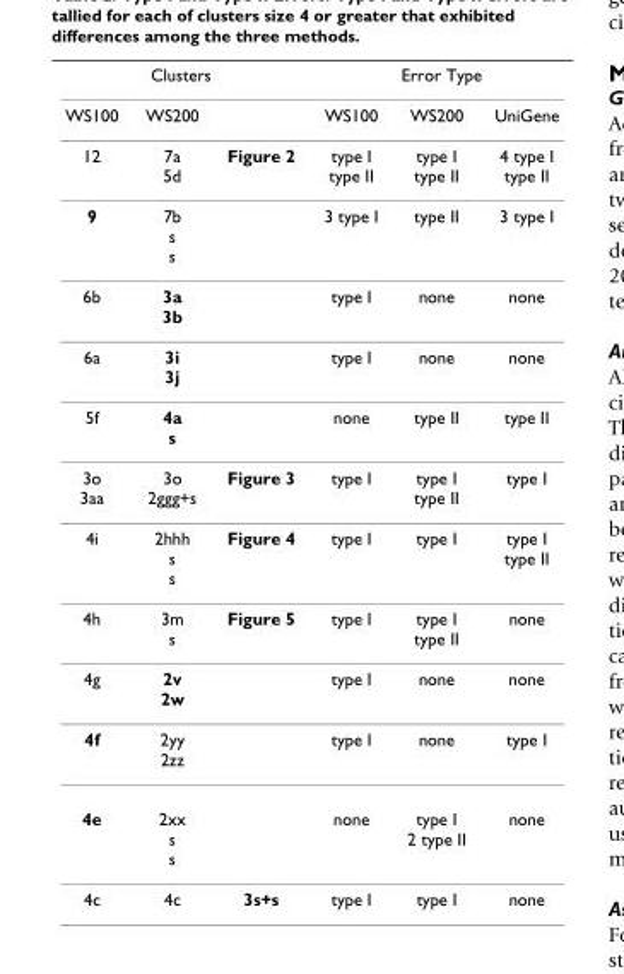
<table><thead><tr><td colspan="3">Clusters</td><td colspan="3">Error Type</td></tr><tr><td>WS100</td><td>WS200</td><td></td><td>WS100</td><td>WS200</td><td>UniGene</td></tr></thead><tbody><tr><td>12</td><td>7a 5d</td><td>Figure 2</td><td>type I type II</td><td>type I type II</td><td>4 type I type II</td></tr><tr><td>9</td><td>7b s s</td><td></td><td>3 type I</td><td>type II</td><td>3 type I</td></tr><tr><td>6b</td><td>3a 3b</td><td></td><td>type I</td><td>none</td><td>none</td></tr><tr><td>6a</td><td>3i 3j</td><td></td><td>type I</td><td>none</td><td>none</td></tr><tr><td>5f</td><td>4a s</td><td></td><td>none</td><td>type II</td><td>type II</td></tr><tr><td>3o 3aa</td><td>3o 2ggg+s</td><td>Figure 3</td><td>type I</td><td>type I type II</td><td>type I</td></tr><tr><td>4i</td><td>2hhh s s</td><td>Figure 4</td><td>type I</td><td>type I</td><td>type I type II</td></tr><tr><td>4h</td><td>3m s</td><td>Figure 5</td><td>type I</td><td>type I type II</td><td>none</td></tr><tr><td>4g</td><td>2v 2w</td><td></td><td>type I</td><td>none</td><td>none</td></tr><tr><td>4f</td><td>2yy 2zz</td><td></td><td>type I</td><td>none</td><td>type I</td></tr><tr><td>4e</td><td>2xx s s</td><td></td><td>none</td><td>type I 2 type II</td><td>none</td></tr><tr><td>4c</td><td>4c</td><td>3s+s</td><td>type I</td><td>type I</td><td>none</td></tr></tbody></table>